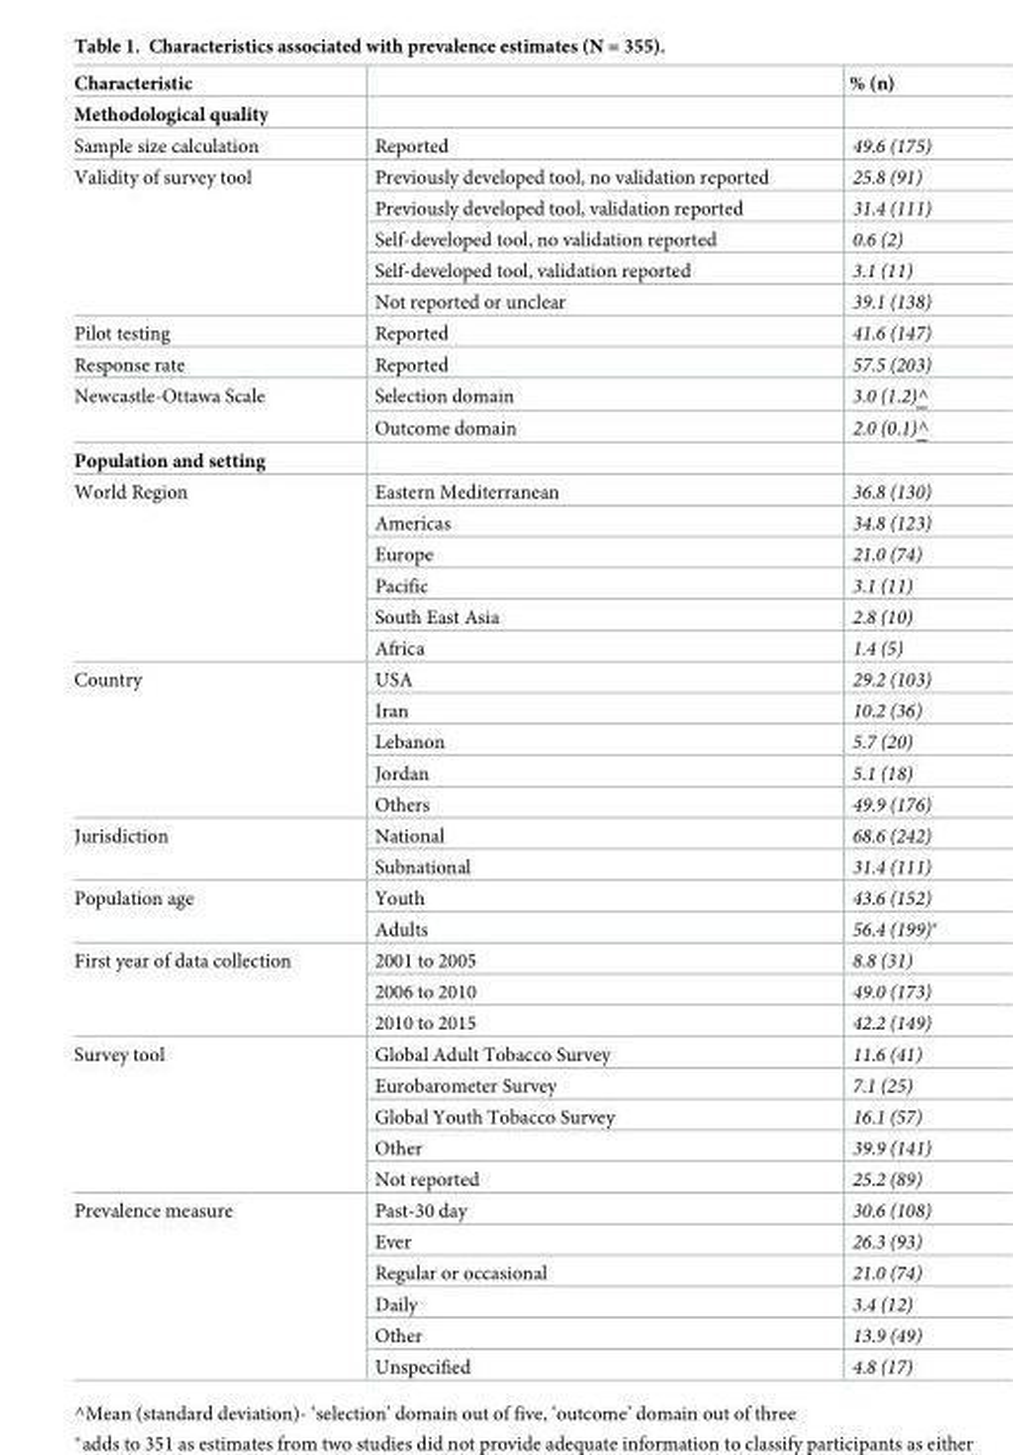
<table><thead><tr><td>Characteristic</td><td></td><td>% (n)</td></tr></thead><tbody><tr><td colspan="3">Methodological quality</td></tr><tr><td>Sample size calculation</td><td>Reported</td><td>49.6 (175)</td></tr><tr><td rowspan="5">Validity of survey tool</td><td>Previously developed tool, no validation reported</td><td>25.8 (91)</td></tr><tr><td>Previously developed tool, validation reported</td><td>31.4 (111)</td></tr><tr><td>Self-developed tool, no validation reported</td><td>0.6 (2)</td></tr><tr><td>Self-developed tool, validation reported</td><td>3.1 (11)</td></tr><tr><td>Not reported or unclear</td><td>39.1 (138)</td></tr><tr><td>Pilot testing</td><td>Reported</td><td>41.6 (147)</td></tr><tr><td>Response rate</td><td>Reported</td><td>57.5 (203)</td></tr><tr><td rowspan="2">Newcastle-Ottawa Scale</td><td>Selection domain</td><td>3.0 (1.2)^</td></tr><tr><td>Outcome domain</td><td>2.0 (0.1)^</td></tr><tr><td colspan="3">Population and setting</td></tr><tr><td rowspan="6">World Region</td><td>Eastern Mediterranean</td><td>36.8 (130)</td></tr><tr><td>Americas</td><td>34.8 (123)</td></tr><tr><td>Europe</td><td>21.0 (74)</td></tr><tr><td>Pacific</td><td>3.1 (11)</td></tr><tr><td>South East Asia</td><td>2.8 (10)</td></tr><tr><td>Africa</td><td>1.4 (5)</td></tr><tr><td rowspan="5">Country</td><td>USA</td><td>29.2 (103)</td></tr><tr><td>Iran</td><td>10.2 (36)</td></tr><tr><td>Lebanon</td><td>5.7 (20)</td></tr><tr><td>Jordan</td><td>5.1 (18)</td></tr><tr><td>Others</td><td>49.9 (176)</td></tr><tr><td rowspan="2">Jurisdiction</td><td>National</td><td>68.6 (242)</td></tr><tr><td>Subnational</td><td>31.4 (111)</td></tr><tr><td rowspan="2">Population age</td><td>Youth</td><td>43.6 (152)</td></tr><tr><td>Adults</td><td>56.4 (199)*</td></tr><tr><td rowspan="3">First year of data collection</td><td>2001 to 2005</td><td>8.8 (31)</td></tr><tr><td>2006 to 2010</td><td>49.0 (173)</td></tr><tr><td>2010 to 2015</td><td>42.2 (149)</td></tr><tr><td rowspan="5">Survey tool</td><td>Global Adult Tobacco Survey</td><td>11.6 (41)</td></tr><tr><td>Eurobarometer Survey</td><td>7.1 (25)</td></tr><tr><td>Global Youth Tobacco Survey</td><td>16.1 (57)</td></tr><tr><td>Other</td><td>39.9 (141)</td></tr><tr><td>Not reported</td><td>25.2 (89)</td></tr><tr><td rowspan="6">Prevalence measure</td><td>Past-30 day</td><td>30.6 (108)</td></tr><tr><td>Ever</td><td>26.3 (93)</td></tr><tr><td>Regular or occasional</td><td>21.0 (74)</td></tr><tr><td>Daily</td><td>3.4 (12)</td></tr><tr><td>Other</td><td>13.9 (49)</td></tr><tr><td>Unspecified</td><td>4.8 (17)</td></tr></tbody></table>